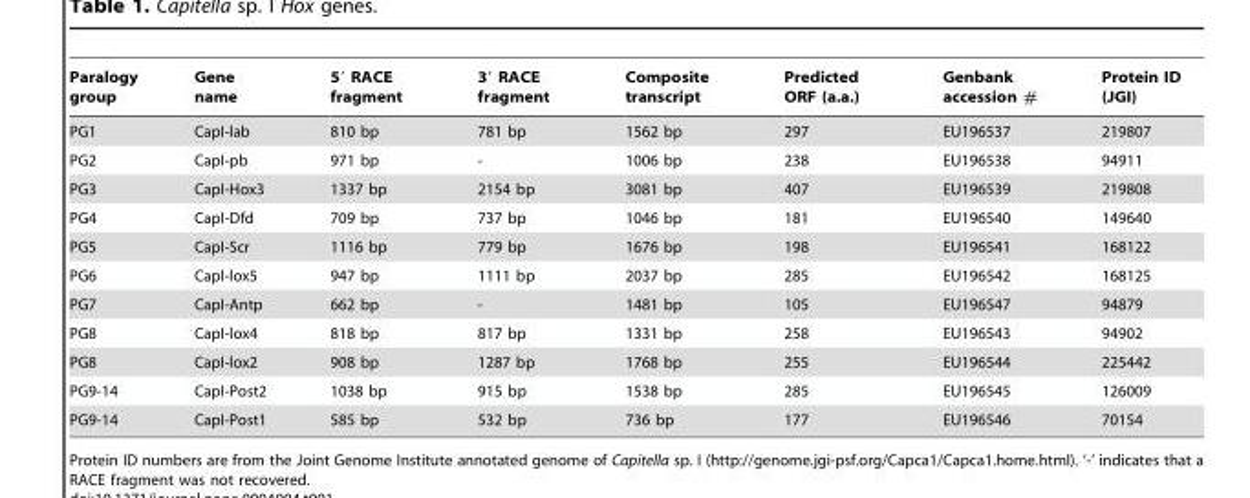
<table><thead><tr><td>Paralogy group</td><td>Gene name</td><td>5′ RACE fragment</td><td>3′ RACE fragment</td><td>Composite transcript</td><td>Predicted ORF (a.a.)</td><td>Genbank accession #</td><td>Protein ID (JGI)</td></tr></thead><tbody><tr><td>PG1</td><td>CapI-lab</td><td>810 bp</td><td>781 bp</td><td>1562 bp</td><td>297</td><td>EU196537</td><td>219807</td></tr><tr><td>PG2</td><td>CapI-pb</td><td>971 bp</td><td>-</td><td>1006 bp</td><td>238</td><td>EU196538</td><td>94911</td></tr><tr><td>PG3</td><td>CapI-Hox3</td><td>1337 bp</td><td>2154 bp</td><td>3081 bp</td><td>407</td><td>EU196539</td><td>219808</td></tr><tr><td>PG4</td><td>CapI-Dfd</td><td>709 bp</td><td>737 bp</td><td>1046 bp</td><td>181</td><td>EU196540</td><td>149640</td></tr><tr><td>PG5</td><td>CapI-Scr</td><td>1116 bp</td><td>779 bp</td><td>1676 bp</td><td>198</td><td>EU196541</td><td>168122</td></tr><tr><td>PG6</td><td>CapI-lox5</td><td>947 bp</td><td>1111 bp</td><td>2037 bp</td><td>285</td><td>EU196542</td><td>168125</td></tr><tr><td>PG7</td><td>CapI-Antp</td><td>662 bp</td><td>-</td><td>1481 bp</td><td>105</td><td>EU196547</td><td>94879</td></tr><tr><td>PG8</td><td>CapI-lox4</td><td>818 bp</td><td>817 bp</td><td>1331 bp</td><td>258</td><td>EU196543</td><td>94902</td></tr><tr><td>PG8</td><td>CapI-lox2</td><td>908 bp</td><td>1287 bp</td><td>1768 bp</td><td>255</td><td>EU196544</td><td>225442</td></tr><tr><td>PG9-14</td><td>CapI-Post2</td><td>1038 bp</td><td>915 bp</td><td>1538 bp</td><td>285</td><td>EU196545</td><td>126009</td></tr><tr><td>PG9-14</td><td>CapI-Post1</td><td>585 bp</td><td>532 bp</td><td>736 bp</td><td>177</td><td>EU196546</td><td>70154</td></tr></tbody></table>